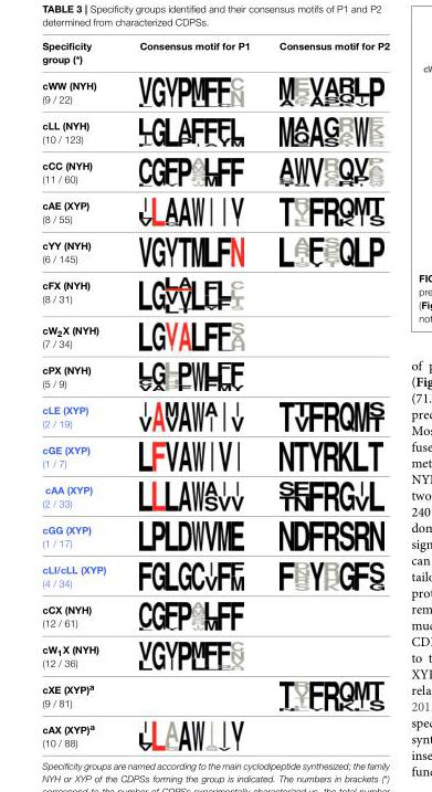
<table><thead><tr><td>Specificity group (*)</td><td>Consensus motif for P1</td><td>Consensus motif for P2</td></tr></thead><tbody><tr><td colspan="3">cWW (NYH) (9 / 22)</td></tr><tr><td colspan="3">cLL (NYH) (10 / 123)</td></tr><tr><td colspan="3">cCC (NYH) (11 / 60)</td></tr><tr><td colspan="3">cAE (XYP) (8 / 55)</td></tr><tr><td colspan="3">cYY (NYH) (6 / 145)</td></tr><tr><td colspan="3">cFX (NYH) (8 / 31)</td></tr><tr><td colspan="3">cW<sub>2</sub>X (NYH) (7 / 34)</td></tr><tr><td colspan="3">cPX (NYH) (5 / 9)</td></tr><tr><td colspan="3">cLE (XYP) (2 / 19)</td></tr><tr><td colspan="3">cGE (XYP) (1 / 7)</td></tr><tr><td colspan="3">cAA (XYP) (2 / 33)</td></tr><tr><td colspan="3">cGG (XYP) (1 / 17)</td></tr><tr><td colspan="3">cLI/cLL (XYP) (4 / 34)</td></tr><tr><td colspan="3">cCX (NYH) (12 / 61)</td></tr><tr><td colspan="3">cW<sub>1</sub>X (NYH) (12 / 36)</td></tr><tr><td colspan="3">cXE (XYP)<sup>a</sup> (9 / 81)</td></tr><tr><td>cAX (XYP)<sup>a</sup> (10 / 88)</td><td></td><td></td></tr></tbody></table>